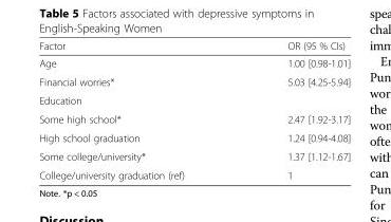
<table><thead><tr><td>Factor</td><td>OR (95 % CIs)</td></tr></thead><tbody><tr><td>Age</td><td>1.00 [0.98-1.01]</td></tr><tr><td>Financial worries*</td><td>5.03 [4.25-5.94]</td></tr><tr><td colspan="2">Education</td></tr><tr><td>Some high school*</td><td>2.47 [1.92-3.17]</td></tr><tr><td>High school graduation</td><td>1.24 [0.94-4.08]</td></tr><tr><td>Some college/university*</td><td>1.37 [1.12-1.67]</td></tr><tr><td>College/university graduation (ref)</td><td>1</td></tr></tbody></table>